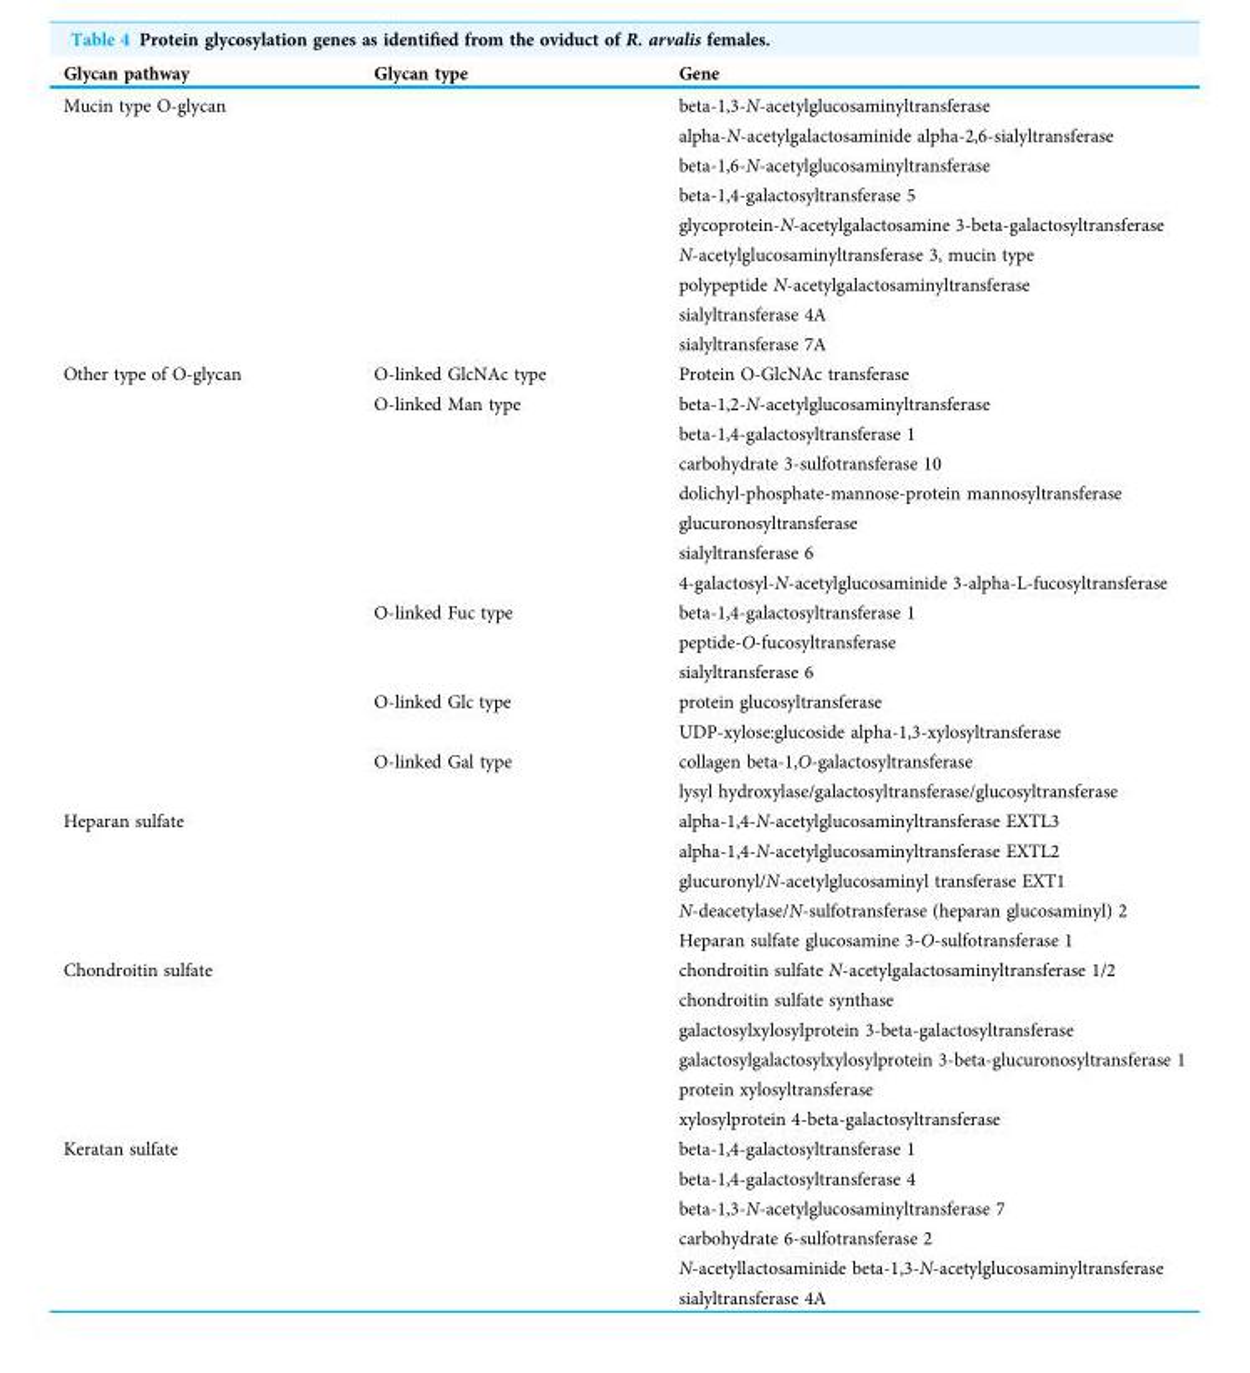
<table><thead><tr><td>Glycan pathway</td><td>Glycan type</td><td>Gene</td></tr></thead><tbody><tr><td rowspan="9">Mucin type O-glycan</td><td></td><td>beta-1,3-N-acetylglucosaminyltransferase</td></tr><tr><td></td><td>alpha-N-acetylgalactosaminide alpha-2,6-sialyltransferase</td></tr><tr><td></td><td>beta-1,6-N-acetylglucosaminyltransferase</td></tr><tr><td></td><td>beta-1,4-galactosyltransferase 5</td></tr><tr><td></td><td>glycoprotein-N-acetylgalactosamine 3-beta-galactosyltransferase</td></tr><tr><td></td><td>N-acetylglucosaminyltransferase 3, mucin type</td></tr><tr><td></td><td>polypeptide N-acetylgalactosaminyltransferase</td></tr><tr><td></td><td>sialyltransferase 4A</td></tr><tr><td></td><td>sialyltransferase 7A</td></tr><tr><td rowspan="15">Other type of O-glycan</td><td>O-linked GlcNAc type</td><td>Protein O-GlcNAc transferase</td></tr><tr><td>O-linked Man type</td><td>beta-1,2-N-acetylglucosaminyltransferase</td></tr><tr><td></td><td>beta-1,4-galactosyltransferase 1</td></tr><tr><td></td><td>carbohydrate 3-sulfotransferase 10</td></tr><tr><td></td><td>dolichyl-phosphate-mannose-protein mannosyltransferase</td></tr><tr><td></td><td>glucuronosyltransferase</td></tr><tr><td></td><td>sialyltransferase 6</td></tr><tr><td></td><td>4-galactosyl-N-acetylglucosaminide 3-alpha-L-fucosyltransferase</td></tr><tr><td>O-linked Fuc type</td><td>beta-1,4-galactosyltransferase 1</td></tr><tr><td></td><td>peptide-O-fucosyltransferase</td></tr><tr><td></td><td>sialyltransferase 6</td></tr><tr><td>O-linked Glc type</td><td>protein glucosyltransferase</td></tr><tr><td></td><td>UDP-xylose:glucoside alpha-1,3-xylosyltransferase</td></tr><tr><td>O-linked Gal type</td><td>collagen beta-1,O-galactosyltransferase</td></tr><tr><td></td><td>lysyl hydroxylase/galactosyltransferase/glucosyltransferase</td></tr><tr><td rowspan="5">Heparan sulfate</td><td></td><td>alpha-1,4-N-acetylglucosaminyltransferase EXTL3</td></tr><tr><td></td><td>alpha-1,4-N-acetylglucosaminyltransferase EXTL2</td></tr><tr><td></td><td>glucuronyl/N-acetylglucosaminyl transferase EXT1</td></tr><tr><td></td><td>N-deacetylase/N-sulfotransferase (heparan glucosaminyl) 2</td></tr><tr><td></td><td>Heparan sulfate glucosamine 3-O-sulfotransferase 1</td></tr><tr><td rowspan="6">Chondroitin sulfate</td><td></td><td>chondroitin sulfate N-acetylgalactosaminyltransferase 1/2</td></tr><tr><td></td><td>chondroitin sulfate synthase</td></tr><tr><td></td><td>galactosylxylosylprotein 3-beta-galactosyltransferase</td></tr><tr><td></td><td>galactosylgalactosylxylosylprotein 3-beta-glucuronosyltransferase 1</td></tr><tr><td></td><td>protein xylosyltransferase</td></tr><tr><td></td><td>xylosylprotein 4-beta-galactosyltransferase</td></tr><tr><td rowspan="6">Keratan sulfate</td><td></td><td>beta-1,4-galactosyltransferase 1</td></tr><tr><td></td><td>beta-1,4-galactosyltransferase 4</td></tr><tr><td></td><td>beta-1,3-N-acetylglucosaminyltransferase 7</td></tr><tr><td></td><td>carbohydrate 6-sulfotransferase 2</td></tr><tr><td></td><td>N-acetyllactosaminide beta-1,3-N-acetylglucosaminyltransferase</td></tr><tr><td></td><td>sialyltransferase 4A</td></tr></tbody></table>